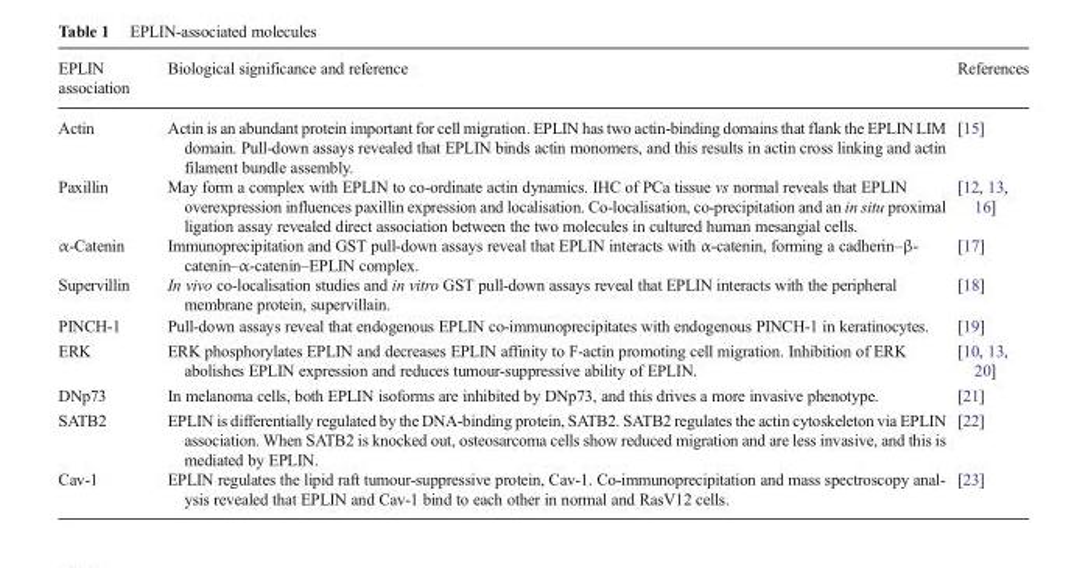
<table><thead><tr><td>EPLIN association</td><td>Biological significance and reference</td><td>References</td></tr></thead><tbody><tr><td>Actin</td><td>Actin is an abundant protein important for cell migration. EPLIN has two actin-binding domains that flank the EPLIN LIM domain. Pull-down assays revealed that EPLIN binds actin monomers, and this results in actin cross linking and actin filament bundle assembly.</td><td>[15]</td></tr><tr><td>Paxillin</td><td>May form a complex with EPLIN to co-ordinate actin dynamics. IHC of PCa tissue vs normal reveals that EPLIN overexpression influences paxillin expression and localisation. Co-localisation, co-precipitation and an in situ proximal ligation assay revealed direct association between the two molecules in cultured human mesangial cells.</td><td>[12, 13, 16]</td></tr><tr><td>α-Catenin</td><td>Immunoprecipitation and GST pull-down assays reveal that EPLIN interacts with α-catenin, forming a cadherin–β- catenin–α-catenin–EPLIN complex.</td><td>[17]</td></tr><tr><td>Supervillin</td><td>In vivo co-localisation studies and in vitro GST pull-down assays reveal that EPLIN interacts with the peripheral membrane protein, supervillain.</td><td>[18]</td></tr><tr><td>PINCH-1</td><td>Pull-down assays reveal that endogenous EPLIN co-immunoprecipitates with endogenous PINCH-1 in keratinocytes.</td><td>[19]</td></tr><tr><td>ERK</td><td>ERK phosphorylates EPLIN and decreases EPLIN affinity to F-actin promoting cell migration. Inhibition of ERK abolishes EPLIN expression and reduces tumour-suppressive ability of EPLIN.</td><td>[10, 13, 20]</td></tr><tr><td>DNp73</td><td>In melanoma cells, both EPLIN isoforms are inhibited by DNp73, and this drives a more invasive phenotype.</td><td>[21]</td></tr><tr><td>SATB2</td><td>EPLIN is differentially regulated by the DNA-binding protein, SATB2. SATB2 regulates the actin cytoskeleton via EPLIN association. When SATB2 is knocked out, osteosarcoma cells show reduced migration and are less invasive, and this is mediated by EPLIN.</td><td>[22]</td></tr><tr><td>Cav-1</td><td>EPLIN regulates the lipid raft tumour-suppressive protein, Cav-1. Co-immunoprecipitation and mass spectroscopy anal- ysis revealed that EPLIN and Cav-1 bind to each other in normal and RasV12 cells.</td><td>[23]</td></tr></tbody></table>